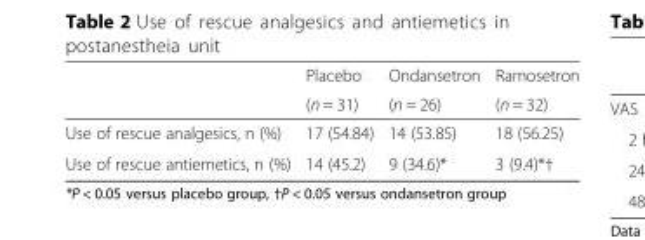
<table><thead><tr><td rowspan="2"></td><td rowspan="2">Placebo (n = 31)</td><td rowspan="2">Ondansetron (n = 26)</td><td rowspan="2">Ramosetron (n = 32)</td></tr><tr></tr></thead><tbody><tr><td>Use of rescue analgesics, n (%)</td><td>17 (54.84)</td><td>14 (53.85)</td><td>18 (56.25)</td></tr><tr><td>Use of rescue antiemetics, n (%)</td><td>14 (45.2)</td><td>9 (34.6)*</td><td>3 (9.4)*†</td></tr></tbody></table>